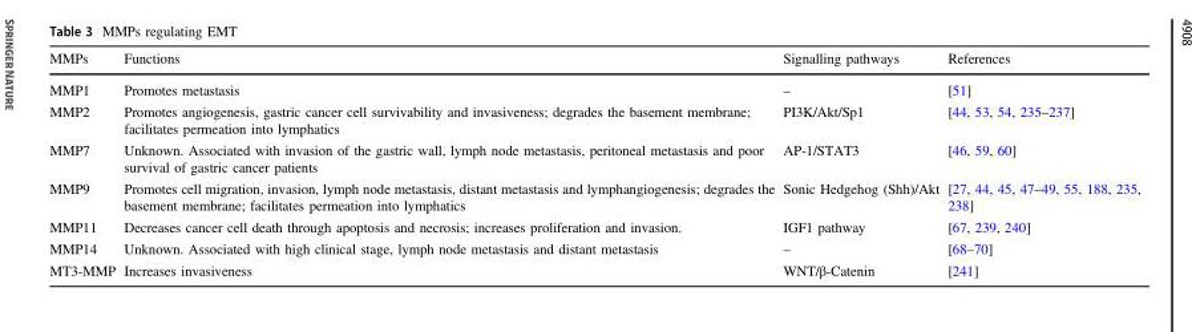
<table><thead><tr><td>MMPs</td><td>Functions</td><td>Signalling pathways</td><td>References</td></tr></thead><tbody><tr><td>MMP1</td><td>Promotes metastasis</td><td>–</td><td>[51]</td></tr><tr><td>MMP2</td><td>Promotes angiogenesis, gastric cancer cell survivability and invasiveness; degrades the basement membrane; facilitates permeation into lymphatics</td><td>PI3K/Akt/Sp1</td><td>[44, 53, 54, 235–237]</td></tr><tr><td>MMP7</td><td>Unknown. Associated with invasion of the gastric wall, lymph node metastasis, peritoneal metastasis and poor survival of gastric cancer patients</td><td>AP-1/STAT3</td><td>[46, 59, 60]</td></tr><tr><td>MMP9</td><td>Promotes cell migration, invasion, lymph node metastasis, distant metastasis and lymphangiogenesis; degrades the basement membrane; facilitates permeation into lymphatics</td><td>Sonic Hedgehog (Shh)/Akt</td><td>[27, 44, 45, 47–49, 55, 188, 235, 238]</td></tr><tr><td>MMP11</td><td>Decreases cancer cell death through apoptosis and necrosis; increases proliferation and invasion.</td><td>IGF1 pathway</td><td>[67, 239, 240]</td></tr><tr><td>MMP14</td><td>Unknown. Associated with high clinical stage, lymph node metastasis and distant metastasis</td><td>–</td><td>[68–70]</td></tr><tr><td>MT3-MMP</td><td>Increases invasiveness</td><td>WNT/β-Catenin</td><td>[241]</td></tr></tbody></table>